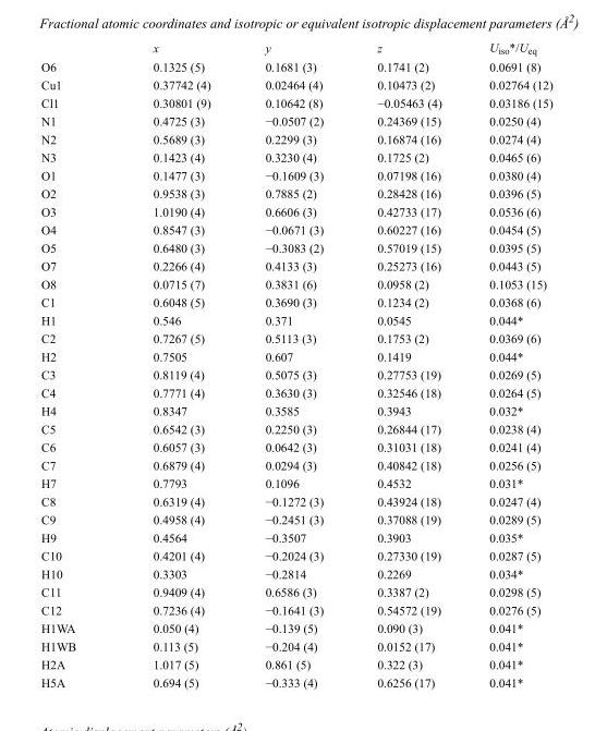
<table><thead><tr><td></td><td>x</td><td>y</td><td>z</td><td>U<sub>iso</sub>*/U<sub>eq</sub></td></tr></thead><tbody><tr><td>O6</td><td>0.1325 (5)</td><td>0.1681 (3)</td><td>0.1741 (2)</td><td>0.0691 (8)</td></tr><tr><td>Cu1</td><td>0.37742 (4)</td><td>0.02464 (4)</td><td>0.10473 (2)</td><td>0.02764 (12)</td></tr><tr><td>Cl1</td><td>0.30801 (9)</td><td>0.10642 (8)</td><td>−0.05463 (4)</td><td>0.03186 (15)</td></tr><tr><td>N1</td><td>0.4725 (3)</td><td>−0.0507 (2)</td><td>0.24369 (15)</td><td>0.0250 (4)</td></tr><tr><td>N2</td><td>0.5689 (3)</td><td>0.2299 (3)</td><td>0.16874 (16)</td><td>0.0274 (4)</td></tr><tr><td>N3</td><td>0.1423 (4)</td><td>0.3230 (4)</td><td>0.1725 (2)</td><td>0.0465 (6)</td></tr><tr><td>O1</td><td>0.1477 (3)</td><td>−0.1609 (3)</td><td>0.07198 (16)</td><td>0.0380 (4)</td></tr><tr><td>O2</td><td>0.9538 (3)</td><td>0.7885 (2)</td><td>0.28428 (16)</td><td>0.0396 (5)</td></tr><tr><td>O3</td><td>1.0190 (4)</td><td>0.6606 (3)</td><td>0.42733 (17)</td><td>0.0536 (6)</td></tr><tr><td>O4</td><td>0.8547 (3)</td><td>−0.0671 (3)</td><td>0.60227 (16)</td><td>0.0454 (5)</td></tr><tr><td>O5</td><td>0.6480 (3)</td><td>−0.3083 (2)</td><td>0.57019 (15)</td><td>0.0395 (5)</td></tr><tr><td>O7</td><td>0.2266 (4)</td><td>0.4133 (3)</td><td>0.25273 (16)</td><td>0.0443 (5)</td></tr><tr><td>O8</td><td>0.0715 (7)</td><td>0.3831 (6)</td><td>0.0958 (2)</td><td>0.1053 (15)</td></tr><tr><td>C1</td><td>0.6048 (5)</td><td>0.3690 (3)</td><td>0.1234 (2)</td><td>0.0368 (6)</td></tr><tr><td>H1</td><td>0.546</td><td>0.371</td><td>0.0545</td><td>0.044*</td></tr><tr><td>C2</td><td>0.7267 (5)</td><td>0.5113 (3)</td><td>0.1753 (2)</td><td>0.0369 (6)</td></tr><tr><td>H2</td><td>0.7505</td><td>0.607</td><td>0.1419</td><td>0.044*</td></tr><tr><td>C3</td><td>0.8119 (4)</td><td>0.5075 (3)</td><td>0.27753 (19)</td><td>0.0269 (5)</td></tr><tr><td>C4</td><td>0.7771 (4)</td><td>0.3630 (3)</td><td>0.32546 (18)</td><td>0.0264 (5)</td></tr><tr><td>H4</td><td>0.8347</td><td>0.3585</td><td>0.3943</td><td>0.032*</td></tr><tr><td>C5</td><td>0.6542 (3)</td><td>0.2250 (3)</td><td>0.26844 (17)</td><td>0.0238 (4)</td></tr><tr><td>C6</td><td>0.6057 (3)</td><td>0.0642 (3)</td><td>0.31031 (18)</td><td>0.0241 (4)</td></tr><tr><td>C7</td><td>0.6879 (4)</td><td>0.0294 (3)</td><td>0.40842 (18)</td><td>0.0256 (5)</td></tr><tr><td>H7</td><td>0.7793</td><td>0.1096</td><td>0.4532</td><td>0.031*</td></tr><tr><td>C8</td><td>0.6319 (4)</td><td>−0.1272 (3)</td><td>0.43924 (18)</td><td>0.0247 (4)</td></tr><tr><td>C9</td><td>0.4958 (4)</td><td>−0.2451 (3)</td><td>0.37088 (19)</td><td>0.0289 (5)</td></tr><tr><td>H9</td><td>0.4564</td><td>−0.3507</td><td>0.3903</td><td>0.035*</td></tr><tr><td>C10</td><td>0.4201 (4)</td><td>−0.2024 (3)</td><td>0.27330 (19)</td><td>0.0287 (5)</td></tr><tr><td>H10</td><td>0.3303</td><td>−0.2814</td><td>0.2269</td><td>0.034*</td></tr><tr><td>C11</td><td>0.9409 (4)</td><td>0.6586 (3)</td><td>0.3387 (2)</td><td>0.0298 (5)</td></tr><tr><td>C12</td><td>0.7236 (4)</td><td>−0.1641 (3)</td><td>0.54572 (19)</td><td>0.0276 (5)</td></tr><tr><td>H1WA</td><td>0.050 (4)</td><td>−0.139 (5)</td><td>0.090 (3)</td><td>0.041*</td></tr><tr><td>H1WB</td><td>0.113 (5)</td><td>−0.204 (4)</td><td>0.0152 (17)</td><td>0.041*</td></tr><tr><td>H2A</td><td>1.017 (5)</td><td>0.861 (5)</td><td>0.322 (3)</td><td>0.041*</td></tr><tr><td>H5A</td><td>0.694 (5)</td><td>−0.333 (4)</td><td>0.6256 (17)</td><td>0.041*</td></tr></tbody></table>